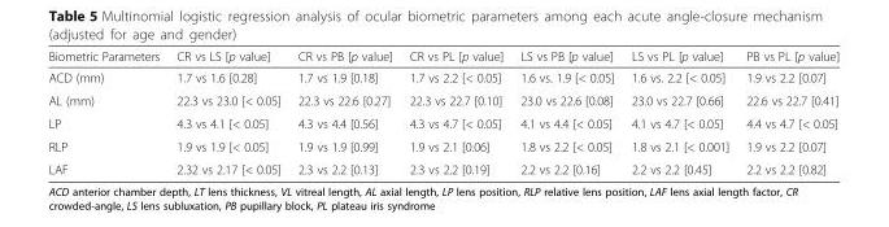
<table><thead><tr><td>Biometric Parameters</td><td>CR vs LS [p value]</td><td>CR vs PB [p value]</td><td>CR vs PL [p value]</td><td>LS vs PB [p value]</td><td>LS vs PL [p value]</td><td>PB vs PL [p value]</td></tr></thead><tbody><tr><td>ACD (mm)</td><td>1.7 vs 1.6 [0.28]</td><td>1.7 vs 1.9 [0.18]</td><td>1.7 vs 2.2 [&lt; 0.05]</td><td>1.6 vs. 1.9 [&lt; 0.05]</td><td>1.6 vs. 2.2 [&lt; 0.05]</td><td>1.9 vs 2.2 [0.07]</td></tr><tr><td>AL (mm)</td><td>22.3 vs 23.0 [&lt; 0.05]</td><td>22.3 vs 22.6 [0.27]</td><td>22.3 vs 22.7 [0.10]</td><td>23.0 vs 22.6 [0.08]</td><td>23.0 vs 22.7 [0.66]</td><td>22.6 vs 22.7 [0.41]</td></tr><tr><td>LP</td><td>4.3 vs 4.1 [&lt; 0.05]</td><td>4.3 vs 4.4 [0.56]</td><td>4.3 vs 4.7 [&lt; 0.05]</td><td>4.1 vs 4.4 [&lt; 0.05]</td><td>4.1 vs 4.7 [&lt; 0.05]</td><td>4.4 vs 4.7 [&lt; 0.05]</td></tr><tr><td>RLP</td><td>1.9 vs 1.9 [&lt; 0.05]</td><td>1.9 vs 1.9 [0.99]</td><td>1.9 vs 2.1 [0.06]</td><td>1.8 vs 2.2 [&lt; 0.05]</td><td>1.8 vs 2.1 [&lt; 0.001]</td><td>1.9 vs 2.2 [0.07]</td></tr><tr><td>LAF</td><td>2.32 vs 2.17 [&lt; 0.05]</td><td>2.3 vs 2.2 [0.13]</td><td>2.3 vs 2.2 [0.19]</td><td>2.2 vs 2.2 [0.16]</td><td>2.2 vs 2.2 [0.45]</td><td>2.2 vs 2.2 [0.82]</td></tr></tbody></table>